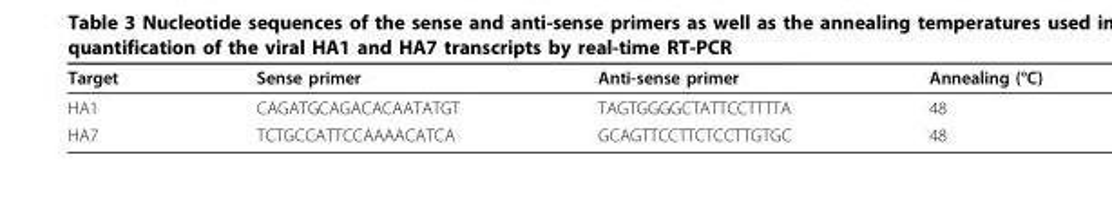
<table><thead><tr><td>Target</td><td>Sense primer</td><td>Anti-sense primer</td><td>Annealing (°C)</td></tr></thead><tbody><tr><td>HA1</td><td>CAGATGCAGACACAATATGT</td><td>TAGTGGGGCTATTCCTTTTA</td><td>48</td></tr><tr><td>HA7</td><td>TCTGCCATTCCAAAACATCA</td><td>GCAGTTCCTTCTCCTTGTGC</td><td>48</td></tr></tbody></table>